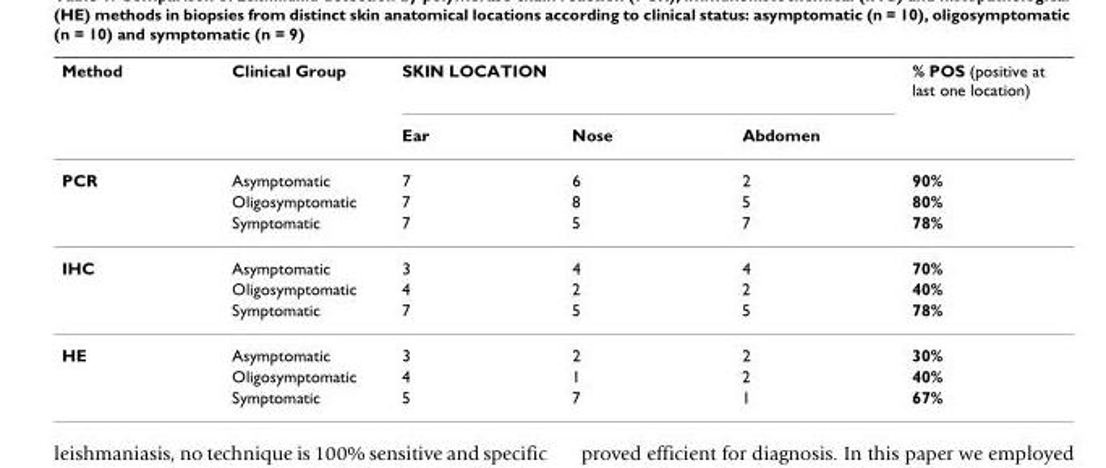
<table><thead><tr><td rowspan="2">Method</td><td rowspan="2">Clinical Group</td><td rowspan="2">SKIN LOCATION Ear</td><td rowspan="2">Nose</td><td rowspan="2">Abdomen</td><td rowspan="2">% POS (positive at last one location)</td></tr><tr></tr></thead><tbody><tr><td rowspan="3">PCR</td><td>Asymptomatic</td><td>7</td><td>6</td><td>2</td><td>90%</td></tr><tr><td>Oligosymptomatic</td><td>7</td><td>8</td><td>5</td><td>80%</td></tr><tr><td>Symptomatic</td><td>7</td><td>5</td><td>7</td><td>78%</td></tr><tr><td rowspan="3">IHC</td><td>Asymptomatic</td><td>3</td><td>4</td><td>4</td><td>70%</td></tr><tr><td>Oligosymptomatic</td><td>4</td><td>2</td><td>2</td><td>40%</td></tr><tr><td>Symptomatic</td><td>7</td><td>5</td><td>5</td><td>78%</td></tr><tr><td rowspan="3">HE</td><td>Asymptomatic</td><td>3</td><td>2</td><td>2</td><td>30%</td></tr><tr><td>Oligosymptomatic</td><td>4</td><td>1</td><td>2</td><td>40%</td></tr><tr><td>Symptomatic</td><td>5</td><td>7</td><td>1</td><td>67%</td></tr></tbody></table>